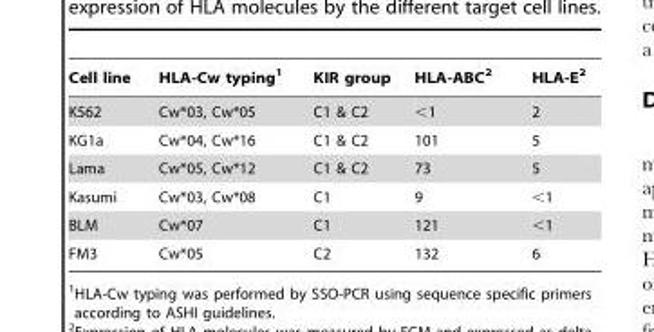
<table><thead><tr><td>Cell line</td><td>HLA-Cw typing<sup>1</sup></td><td>KIR group</td><td>HLA-ABC<sup>2</sup></td><td>HLA-E<sup>2</sup></td></tr></thead><tbody><tr><td>K562</td><td>Cw*03, Cw*05</td><td>C1 &amp; C2</td><td>&lt;1</td><td>2</td></tr><tr><td>KG1a</td><td>Cw*04, Cw*16</td><td>C1 &amp; C2</td><td>101</td><td>5</td></tr><tr><td>Lama</td><td>Cw*05, Cw*12</td><td>C1 &amp; C2</td><td>73</td><td>5</td></tr><tr><td>Kasumi</td><td>Cw*03, Cw*08</td><td>C1</td><td>9</td><td>&lt;1</td></tr><tr><td>BLM</td><td>Cw*07</td><td>C1</td><td>121</td><td>&lt;1</td></tr><tr><td>FM3</td><td>Cw*05</td><td>C2</td><td>132</td><td>6</td></tr></tbody></table>